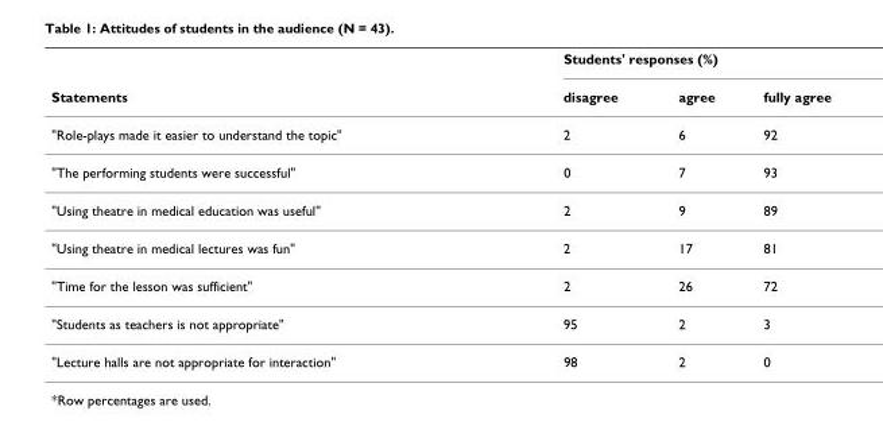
<table><thead><tr><td rowspan="2">Statements</td><td colspan="3">Students&#x27; responses (%)</td></tr><tr><td>disagree</td><td>agree</td><td>fully agree</td></tr></thead><tbody><tr><td>&quot;Role-plays made it easier to understand the topic&quot;</td><td>2</td><td>6</td><td>92</td></tr><tr><td>&quot;The performing students were successful&quot;</td><td>0</td><td>7</td><td>93</td></tr><tr><td>&quot;Using theatre in medical education was useful&quot;</td><td>2</td><td>9</td><td>89</td></tr><tr><td>&quot;Using theatre in medical lectures was fun&quot;</td><td>2</td><td>17</td><td>81</td></tr><tr><td>&quot;Time for the lesson was sufficient&quot;</td><td>2</td><td>26</td><td>72</td></tr><tr><td>&quot;Students as teachers is not appropriate&quot;</td><td>95</td><td>2</td><td>3</td></tr><tr><td>&quot;Lecture halls are not appropriate for interaction&quot;</td><td>98</td><td>2</td><td>0</td></tr></tbody></table>